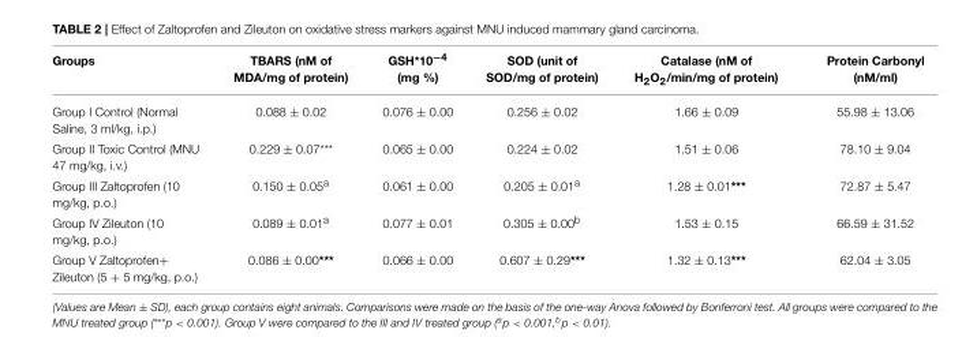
<table><thead><tr><td>Groups</td><td>TBARS (nM of MDA/mg of protein)</td><td>GSH*10<sup>−4</sup> (mg %)</td><td>SOD (unit of SOD/mg of protein)</td><td>Catalase (nM of H<sub>2</sub>O<sub>2</sub>/min/mg of protein)</td><td>Protein Carbonyl (nM/ml)</td></tr></thead><tbody><tr><td>Group I Control (Normal Saline, 3 ml/kg, i.p.)</td><td>0.088 ± 0.02</td><td>0.076 ± 0.00</td><td>0.256 ± 0.02</td><td>1.66 ± 0.09</td><td>55.98 ± 13.06</td></tr><tr><td>Group II Toxic Control (MNU 47 mg/kg, i.v.)</td><td>0.229 ± 0.07***</td><td>0.065 ± 0.00</td><td>0.224 ± 0.02</td><td>1.51 ± 0.06</td><td>78.10 ± 9.04</td></tr><tr><td>Group III Zaltoprofen (10 mg/kg, p.o.)</td><td>0.150 ± 0.05<sup>a</sup></td><td>0.061 ± 0.00</td><td>0.205 ± 0.01<sup>a</sup></td><td>1.28 ± 0.01***</td><td>72.87 ± 5.47</td></tr><tr><td>Group IV Zileuton (10 mg/kg, p.o.)</td><td>0.089 ± 0.01<sup>a</sup></td><td>0.077 ± 0.01</td><td>0.305 ± 0.00<sup>b</sup></td><td>1.53 ± 0.15</td><td>66.59 ± 31.52</td></tr><tr><td>Group V Zaltoprofen+ Zileuton (5 + 5 mg/kg, p.o.)</td><td>0.086 ± 0.00***</td><td>0.066 ± 0.00</td><td>0.607 ± 0.29***</td><td>1.32 ± 0.13***</td><td>62.04 ± 3.05</td></tr></tbody></table>